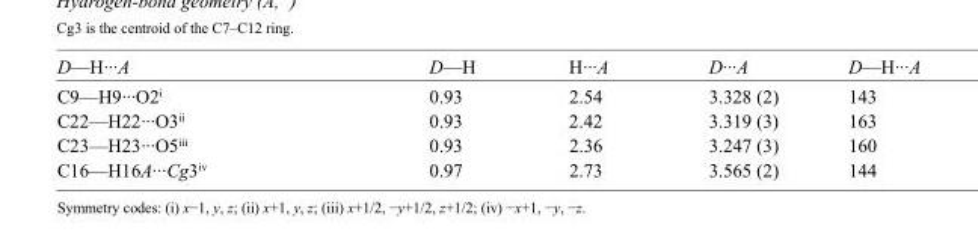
<table><tbody><tr><td>D—H···A</td><td>D—H</td><td>H···A</td><td>D···A</td><td>D—H···A</td></tr><tr><td>C9—H9···O2<sup>i</sup></td><td>0.93</td><td>2.54</td><td>3.328 (2)</td><td>143</td></tr><tr><td>C22—H22···O3<sup>ii</sup></td><td>0.93</td><td>2.42</td><td>3.319 (3)</td><td>163</td></tr><tr><td>C23—H23···O5<sup>iii</sup></td><td>0.93</td><td>2.36</td><td>3.247 (3)</td><td>160</td></tr><tr><td>C16—H16A···Cg3<sup>iv</sup></td><td>0.97</td><td>2.73</td><td>3.565 (2)</td><td>144</td></tr></tbody></table>